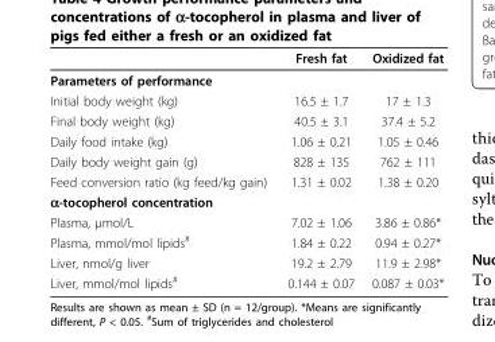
<table><thead><tr><td></td><td>Fresh fat</td><td>Oxidized fat</td></tr></thead><tbody><tr><td colspan="3">Parameters of performance</td></tr><tr><td>Initial body weight (kg)</td><td>16.5 ± 1.7</td><td>17 ± 1.3</td></tr><tr><td>Final body weight (kg)</td><td>40.5 ± 3.1</td><td>37.4 ± 5.2</td></tr><tr><td>Daily food intake (kg)</td><td>1.06 ± 0.21</td><td>1.05 ± 0.46</td></tr><tr><td>Daily body weight gain (g)</td><td>828 ± 135</td><td>762 ± 111</td></tr><tr><td>Feed conversion ratio (kg feed/kg gain)</td><td>1.31 ± 0.02</td><td>1.38 ± 0.20</td></tr><tr><td colspan="3">α-tocopherol concentration</td></tr><tr><td>Plasma, μmol/L</td><td>7.02 ± 1.06</td><td>3.86 ± 0.86*</td></tr><tr><td>Plasma, mmol/mol lipids<sup>#</sup></td><td>1.84 ± 0.22</td><td>0.94 ± 0.27*</td></tr><tr><td>Liver, nmol/g liver</td><td>19.2 ± 2.79</td><td>11.9 ± 2.98*</td></tr><tr><td>Liver, mmol/mol lipids<sup>#</sup></td><td>0.144 ± 0.07</td><td>0.087 ± 0.03*</td></tr></tbody></table>